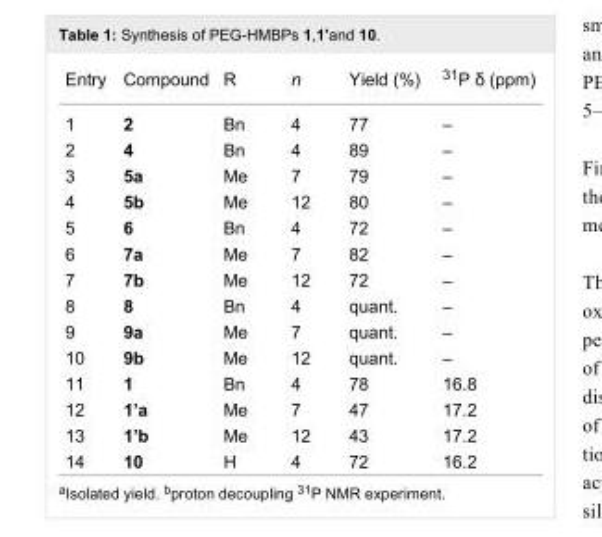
<table><tbody><tr><td>Entry</td><td>Compound</td><td>R</td><td>n</td><td>Yield (%)</td><td><sup>31</sup>P δ (ppm)</td></tr><tr><td>1</td><td>2</td><td>Bn</td><td>4</td><td>77</td><td>–</td></tr><tr><td>2</td><td>4</td><td>Bn</td><td>4</td><td>89</td><td>–</td></tr><tr><td>3</td><td>5a</td><td>Me</td><td>7</td><td>79</td><td>–</td></tr><tr><td>4</td><td>5b</td><td>Me</td><td>12</td><td>80</td><td>–</td></tr><tr><td>5</td><td>6</td><td>Bn</td><td>4</td><td>72</td><td>–</td></tr><tr><td>6</td><td>7a</td><td>Me</td><td>7</td><td>82</td><td>–</td></tr><tr><td>7</td><td>7b</td><td>Me</td><td>12</td><td>72</td><td>–</td></tr><tr><td>8</td><td>8</td><td>Bn</td><td>4</td><td>quant.</td><td>–</td></tr><tr><td>9</td><td>9a</td><td>Me</td><td>7</td><td>quant.</td><td>–</td></tr><tr><td>10</td><td>9b</td><td>Me</td><td>12</td><td>quant.</td><td>–</td></tr><tr><td>11</td><td>1</td><td>Bn</td><td>4</td><td>78</td><td>16.8</td></tr><tr><td>12</td><td>1’a</td><td>Me</td><td>7</td><td>47</td><td>17.2</td></tr><tr><td>13</td><td>1’b</td><td>Me</td><td>12</td><td>43</td><td>17.2</td></tr><tr><td>14</td><td>10</td><td>H</td><td>4</td><td>72</td><td>16.2</td></tr></tbody></table>